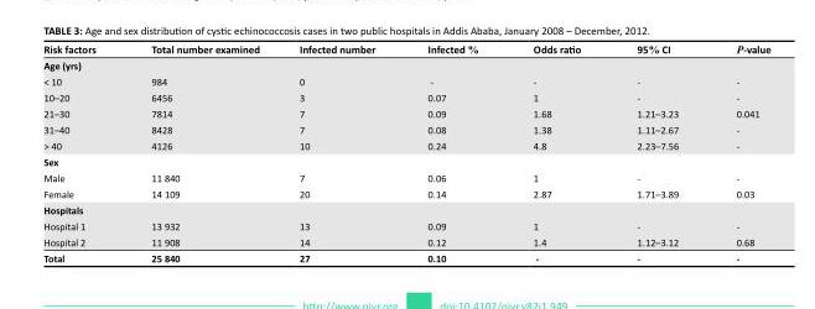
<table><thead><tr><td>Risk factors</td><td>Total number examined</td><td>Infected number</td><td>Infected %</td><td>Odds ratio</td><td>95% CI</td><td>P-value</td></tr></thead><tbody><tr><td colspan="7">Age (yrs)</td></tr><tr><td>&lt; 10</td><td>984</td><td>0</td><td>-</td><td>-</td><td>-</td><td>-</td></tr><tr><td>10–20</td><td>6456</td><td>3</td><td>0.07</td><td>1</td><td>-</td><td>-</td></tr><tr><td>21–30</td><td>7814</td><td>7</td><td>0.09</td><td>1.68</td><td>1.21–3.23</td><td>0.041</td></tr><tr><td>31–40</td><td>8428</td><td>7</td><td>0.08</td><td>1.38</td><td>1.11–2.67</td><td>-</td></tr><tr><td>&gt; 40</td><td>4126</td><td>10</td><td>0.24</td><td>4.8</td><td>2.23–7.56</td><td>-</td></tr><tr><td colspan="7">Sex</td></tr><tr><td>Male</td><td>11 840</td><td>7</td><td>0.06</td><td>1</td><td>-</td><td>-</td></tr><tr><td>Female</td><td>14 109</td><td>20</td><td>0.14</td><td>2.87</td><td>1.71–3.89</td><td>0.03</td></tr><tr><td colspan="7">Hospitals</td></tr><tr><td>Hospital 1</td><td>13 932</td><td>13</td><td>0.09</td><td>1</td><td>-</td><td>-</td></tr><tr><td>Hospital 2</td><td>11 908</td><td>14</td><td>0.12</td><td>1.4</td><td>1.12–3.12</td><td>0.68</td></tr><tr><td>Total</td><td>25 840</td><td>27</td><td>0.10</td><td>-</td><td>-</td><td>-</td></tr></tbody></table>